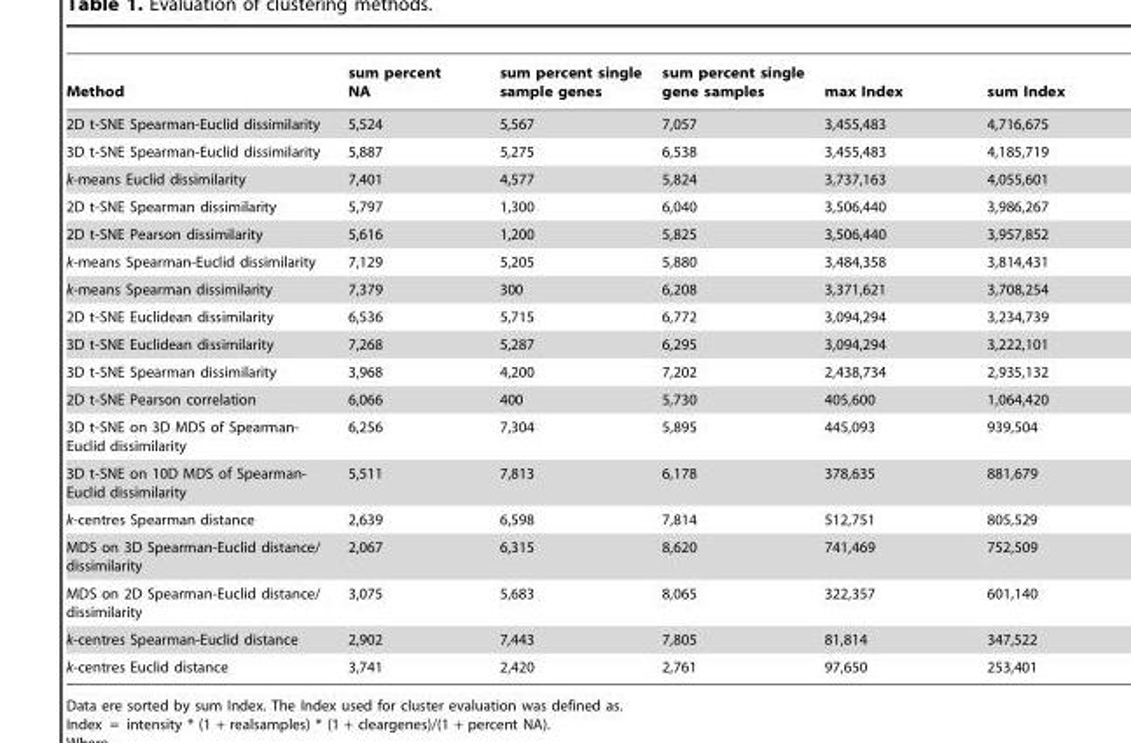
<table><thead><tr><td>Method</td><td>sum percent NA</td><td>sum percent single sample genes</td><td>sum percent single gene samples</td><td>max Index</td><td>sum Index</td></tr></thead><tbody><tr><td>2D t-SNE Spearman-Euclid dissimilarity</td><td>5,524</td><td>5,567</td><td>7,057</td><td>3,455,483</td><td>4,716,675</td></tr><tr><td>3D t-SNE Spearman-Euclid dissimilarity</td><td>5,887</td><td>5,275</td><td>6,538</td><td>3,455,483</td><td>4,185,719</td></tr><tr><td>k-means Euclid dissimilarity</td><td>7,401</td><td>4,577</td><td>5,824</td><td>3,737,163</td><td>4,055,601</td></tr><tr><td>2D t-SNE Spearman dissimilarity</td><td>5,797</td><td>1,300</td><td>6,040</td><td>3,506,440</td><td>3,986,267</td></tr><tr><td>2D t-SNE Pearson dissimilarity</td><td>5,616</td><td>1,200</td><td>5,825</td><td>3,506,440</td><td>3,957,852</td></tr><tr><td>k-means Spearman-Euclid dissimilarity</td><td>7,129</td><td>5,205</td><td>5,880</td><td>3,484,358</td><td>3,814,431</td></tr><tr><td>k-means Spearman dissimilarity</td><td>7,379</td><td>300</td><td>6,208</td><td>3,371,621</td><td>3,708,254</td></tr><tr><td>2D t-SNE Euclidean dissimilarity</td><td>6,536</td><td>5,715</td><td>6,772</td><td>3,094,294</td><td>3,234,739</td></tr><tr><td>3D t-SNE Euclidean dissimilarity</td><td>7,268</td><td>5,287</td><td>6,295</td><td>3,094,294</td><td>3,222,101</td></tr><tr><td>3D t-SNE Spearman dissimilarity</td><td>3,968</td><td>4,200</td><td>7,202</td><td>2,438,734</td><td>2,935,132</td></tr><tr><td>2D t-SNE Pearson correlation</td><td>6,066</td><td>400</td><td>5,730</td><td>405,600</td><td>1,064,420</td></tr><tr><td>3D t-SNE on 3D MDS of Spearman- Euclid dissimilarity</td><td>6,256</td><td>7,304</td><td>5,895</td><td>445,093</td><td>939,504</td></tr><tr><td>3D t-SNE on 10D MDS of Spearman- Euclid dissimilarity</td><td>5,511</td><td>7,813</td><td>6,178</td><td>378,635</td><td>881,679</td></tr><tr><td>k-centres Spearman distance</td><td>2,639</td><td>6,598</td><td>7,814</td><td>512,751</td><td>805,529</td></tr><tr><td>MDS on 3D Spearman-Euclid distance/ dissimilarity</td><td>2,067</td><td>6,315</td><td>8,620</td><td>741,469</td><td>752,509</td></tr><tr><td>MDS on 2D Spearman-Euclid distance/ dissimilarity</td><td>3,075</td><td>5,683</td><td>8,065</td><td>322,357</td><td>601,140</td></tr><tr><td>k-centres Spearman-Euclid distance</td><td>2,902</td><td>7,443</td><td>7,805</td><td>81,814</td><td>347,522</td></tr><tr><td>k-centres Euclid distance</td><td>3,741</td><td>2,420</td><td>2,761</td><td>97,650</td><td>253,401</td></tr></tbody></table>